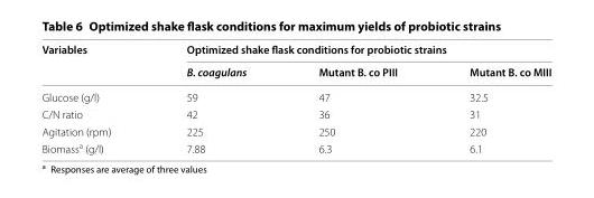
<table><thead><tr><td rowspan="2">Variables</td><td colspan="3">Optimized shake flask conditions for probiotic strains</td></tr><tr><td>B. coagulans</td><td>Mutant B. co PIII</td><td>Mutant B. co MIII</td></tr></thead><tbody><tr><td>Glucose (g/l)</td><td>59</td><td>47</td><td>32.5</td></tr><tr><td>C/N ratio</td><td>42</td><td>36</td><td>31</td></tr><tr><td>Agitation (rpm)</td><td>225</td><td>250</td><td>220</td></tr><tr><td>Biomass<sup>a</sup> (g/l)</td><td>7.88</td><td>6.3</td><td>6.1</td></tr></tbody></table>